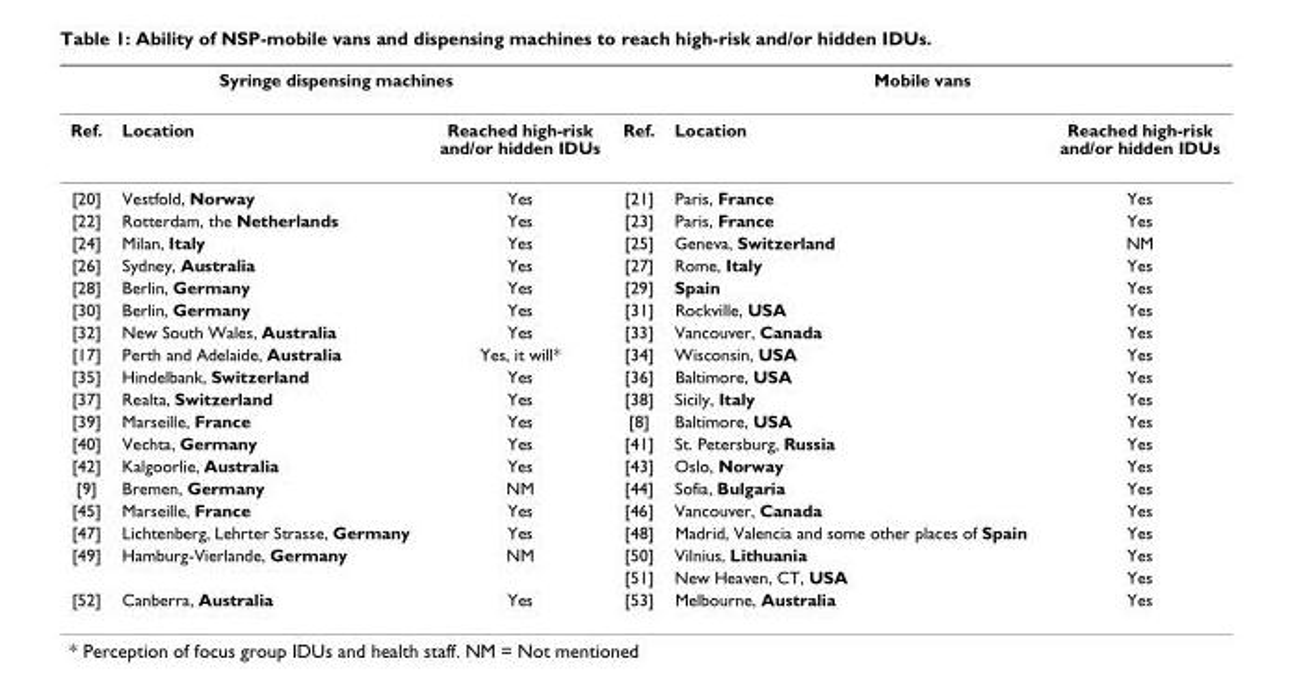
<table><thead><tr><td colspan="3">Syringe dispensing machines</td><td colspan="3">Mobile vans</td></tr><tr><td>Ref.</td><td>Location</td><td>Reached high-risk and/or hidden IDUs</td><td>Ref.</td><td>Location</td><td>Reached high-risk and/or hidden IDUs</td></tr></thead><tbody><tr><td>[20]</td><td>Vestfold, Norway</td><td>Yes</td><td>[21]</td><td>Paris, France</td><td>Yes</td></tr><tr><td>[22]</td><td>Rotterdam, the Netherlands</td><td>Yes</td><td>[23]</td><td>Paris, France</td><td>Yes</td></tr><tr><td>[24]</td><td>Milan, Italy</td><td>Yes</td><td>[25]</td><td>Geneva, Switzerland</td><td>NM</td></tr><tr><td>[26]</td><td>Sydney, Australia</td><td>Yes</td><td>[27]</td><td>Rome, Italy</td><td>Yes</td></tr><tr><td>[28]</td><td>Berlin, Germany</td><td>Yes</td><td>[29]</td><td>Spain</td><td>Yes</td></tr><tr><td>[30]</td><td>Berlin, Germany</td><td>Yes</td><td>[31]</td><td>Rockville, USA</td><td>Yes</td></tr><tr><td>[32]</td><td>New South Wales, Australia</td><td>Yes</td><td>[33]</td><td>Vancouver, Canada</td><td>Yes</td></tr><tr><td>[17]</td><td>Perth and Adelaide, Australia</td><td>Yes, it will*</td><td>[34]</td><td>Wisconsin, USA</td><td>Yes</td></tr><tr><td>[35]</td><td>Hindelbank, Switzerland</td><td>Yes</td><td>[36]</td><td>Baltimore, USA</td><td>Yes</td></tr><tr><td>[37]</td><td>Realta, Switzerland</td><td>Yes</td><td>[38]</td><td>Sicily, Italy</td><td>Yes</td></tr><tr><td>[39]</td><td>Marseille, France</td><td>Yes</td><td>[8]</td><td>Baltimore, USA</td><td>Yes</td></tr><tr><td>[40]</td><td>Vechta, Germany</td><td>Yes</td><td>[41]</td><td>St. Petersburg, Russia</td><td>Yes</td></tr><tr><td>[42]</td><td>Kalgoorlie, Australia</td><td>Yes</td><td>[43]</td><td>Oslo, Norway</td><td>Yes</td></tr><tr><td>[9]</td><td>Bremen, Germany</td><td>NM</td><td>[44]</td><td>Sofia, Bulgaria</td><td>Yes</td></tr><tr><td>[45]</td><td>Marseille, France</td><td>Yes</td><td>[46]</td><td>Vancouver, Canada</td><td>Yes</td></tr><tr><td>[47]</td><td>Lichtenberg, Lehrter Strasse, Germany</td><td>Yes</td><td>[48]</td><td>Madrid, Valencia and some other places of Spain</td><td>Yes</td></tr><tr><td rowspan="2">[49]</td><td>Hamburg-Vierlande, Germany</td><td>NM</td><td>[50]</td><td>Vilnius, Lithuania</td><td>Yes</td></tr><tr><td></td><td></td><td>[51]</td><td>New Heaven, CT, USA</td><td>Yes</td></tr><tr><td>[52]</td><td>Canberra, Australia</td><td>Yes</td><td>[53]</td><td>Melbourne, Australia</td><td>Yes</td></tr></tbody></table>